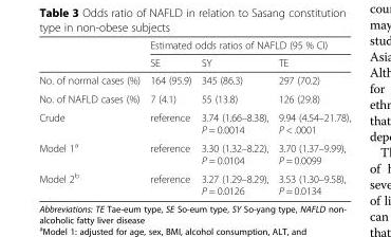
<table><thead><tr><td rowspan="2"></td><td colspan="3">Estimated odds ratios of NAFLD (95 % CI)</td></tr><tr><td>SE</td><td>SY</td><td>TE</td></tr></thead><tbody><tr><td>No. of normal cases (%)</td><td>164 (95.9)</td><td>345 (86.3)</td><td>297 (70.2)</td></tr><tr><td>No. of NAFLD cases (%)</td><td>7 (4.1)</td><td>55 (13.8)</td><td>126 (29.8)</td></tr><tr><td>Crude</td><td>reference</td><td>3.74 (1.66–8.38), P = 0.0014</td><td>9.94 (4.54–21.78), P &lt; .0001</td></tr><tr><td>Model 1<sup>a</sup></td><td>reference</td><td>3.30 (1.32–8.22), P = 0.0104</td><td>3.70 (1.37–9.99), P = 0.0099</td></tr><tr><td>Model 2<sup>b</sup></td><td>reference</td><td>3.27 (1.29–8.29), P = 0.0126</td><td>3.53 (1.30–9.58), P = 0.0134</td></tr></tbody></table>